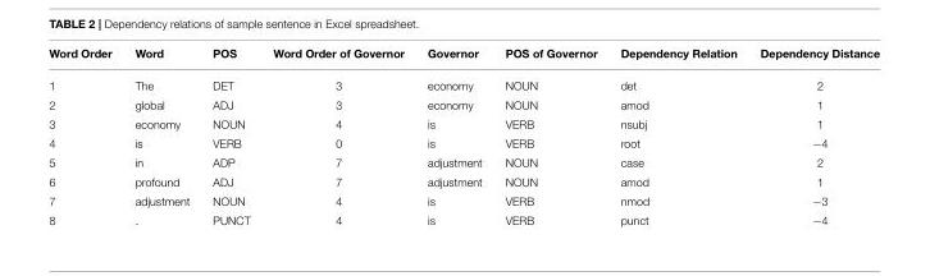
<table><thead><tr><td>Word Order</td><td>Word</td><td>POS</td><td>Word Order of Governor</td><td>Governor</td><td>POS of Governor</td><td>Dependency Relation</td><td>Dependency Distance</td></tr></thead><tbody><tr><td>1</td><td>The</td><td>DET</td><td>3</td><td>economy</td><td>NOUN</td><td>det</td><td>2</td></tr><tr><td>2</td><td>global</td><td>ADJ</td><td>3</td><td>economy</td><td>NOUN</td><td>amod</td><td>1</td></tr><tr><td>3</td><td>economy</td><td>NOUN</td><td>4</td><td>is</td><td>VERB</td><td>nsubj</td><td>1</td></tr><tr><td>4</td><td>is</td><td>VERB</td><td>0</td><td>is</td><td>VERB</td><td>root</td><td>−4</td></tr><tr><td>5</td><td>in</td><td>ADP</td><td>7</td><td>adjustment</td><td>NOUN</td><td>case</td><td>2</td></tr><tr><td>6</td><td>profound</td><td>ADJ</td><td>7</td><td>adjustment</td><td>NOUN</td><td>amod</td><td>1</td></tr><tr><td>7</td><td>adjustment</td><td>NOUN</td><td>4</td><td>is</td><td>VERB</td><td>nmod</td><td>−3</td></tr><tr><td>8</td><td>.</td><td>PUNCT</td><td>4</td><td>is</td><td>VERB</td><td>punct</td><td>−4</td></tr></tbody></table>